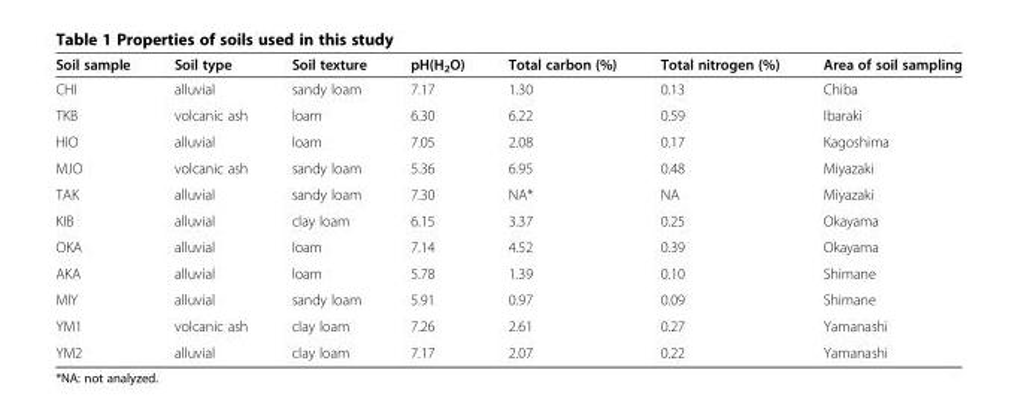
<table><thead><tr><td>Soil sample</td><td>Soil type</td><td>Soil texture</td><td>pH(H<sub>2</sub>O)</td><td>Total carbon (%)</td><td>Total nitrogen (%)</td><td>Area of soil sampling</td></tr></thead><tbody><tr><td>CHI</td><td>alluvial</td><td>sandy loam</td><td>7.17</td><td>1.30</td><td>0.13</td><td>Chiba</td></tr><tr><td>TKB</td><td>volcanic ash</td><td>loam</td><td>6.30</td><td>6.22</td><td>0.59</td><td>Ibaraki</td></tr><tr><td>HIO</td><td>alluvial</td><td>loam</td><td>7.05</td><td>2.08</td><td>0.17</td><td>Kagoshima</td></tr><tr><td>MJO</td><td>volcanic ash</td><td>sandy loam</td><td>5.36</td><td>6.95</td><td>0.48</td><td>Miyazaki</td></tr><tr><td>TAK</td><td>alluvial</td><td>sandy loam</td><td>7.30</td><td>NA*</td><td>NA</td><td>Miyazaki</td></tr><tr><td>KIB</td><td>alluvial</td><td>clay loam</td><td>6.15</td><td>3.37</td><td>0.25</td><td>Okayama</td></tr><tr><td>OKA</td><td>alluvial</td><td>loam</td><td>7.14</td><td>4.52</td><td>0.39</td><td>Okayama</td></tr><tr><td>AKA</td><td>alluvial</td><td>loam</td><td>5.78</td><td>1.39</td><td>0.10</td><td>Shimane</td></tr><tr><td>MIY</td><td>alluvial</td><td>sandy loam</td><td>5.91</td><td>0.97</td><td>0.09</td><td>Shimane</td></tr><tr><td>YM1</td><td>volcanic ash</td><td>clay loam</td><td>7.26</td><td>2.61</td><td>0.27</td><td>Yamanashi</td></tr><tr><td>YM2</td><td>alluvial</td><td>clay loam</td><td>7.17</td><td>2.07</td><td>0.22</td><td>Yamanashi</td></tr></tbody></table>